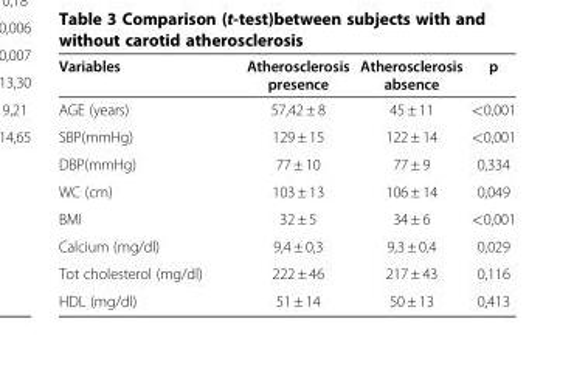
<table><thead><tr><td>Variables</td><td>Atherosclerosis presence</td><td>Atherosclerosis absence</td><td>p</td></tr></thead><tbody><tr><td>AGE (years)</td><td>57,42 ± 8</td><td>45 ± 11</td><td>&lt;0,001</td></tr><tr><td>SBP(mmHg)</td><td>129 ± 15</td><td>122 ± 14</td><td>&lt;0,001</td></tr><tr><td>DBP(mmHg)</td><td>77 ± 10</td><td>77 ± 9</td><td>0,334</td></tr><tr><td>WC (cm)</td><td>103 ± 13</td><td>106 ± 14</td><td>0,049</td></tr><tr><td>BMI</td><td>32 ± 5</td><td>34 ± 6</td><td>&lt;0,001</td></tr><tr><td>Calcium (mg/dl)</td><td>9,4 ± 0,3</td><td>9,3 ± 0,4</td><td>0,029</td></tr><tr><td>Tot cholesterol (mg/dl)</td><td>222 ± 46</td><td>217 ± 43</td><td>0,116</td></tr><tr><td>HDL (mg/dl)</td><td>51 ± 14</td><td>50 ± 13</td><td>0,413</td></tr></tbody></table>